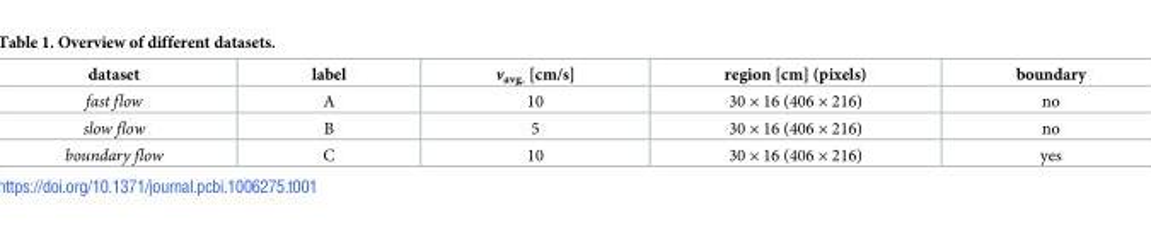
<table><thead><tr><td>dataset</td><td>label</td><td>v<sub>avg.</sub> [cm/s]</td><td>region [cm] (pixels)</td><td>boundary</td></tr></thead><tbody><tr><td>fast flow</td><td>A</td><td>10</td><td>30 × 16 (406 × 216)</td><td>no</td></tr><tr><td>slow flow</td><td>B</td><td>5</td><td>30 × 16 (406 × 216)</td><td>no</td></tr><tr><td>boundary flow</td><td>C</td><td>10</td><td>30 × 16 (406 × 216)</td><td>yes</td></tr></tbody></table>